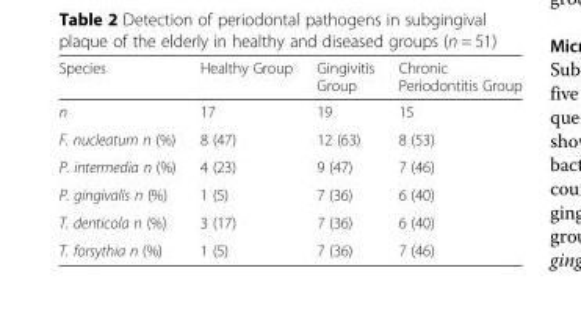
<table><thead><tr><td>Species</td><td>Healthy Group</td><td>Gingivitis Group</td><td>Chronic Periodontitis Group</td></tr></thead><tbody><tr><td>n</td><td>17</td><td>19</td><td>15</td></tr><tr><td>F. nucleatum n (%)</td><td>8 (47)</td><td>12 (63)</td><td>8 (53)</td></tr><tr><td>P. intermedia n (%)</td><td>4 (23)</td><td>9 (47)</td><td>7 (46)</td></tr><tr><td>P. gingivalis n (%)</td><td>1 (5)</td><td>7 (36)</td><td>6 (40)</td></tr><tr><td>T. denticola n (%)</td><td>3 (17)</td><td>7 (36)</td><td>6 (40)</td></tr><tr><td>T. forsythia n (%)</td><td>1 (5)</td><td>7 (36)</td><td>7 (46)</td></tr></tbody></table>